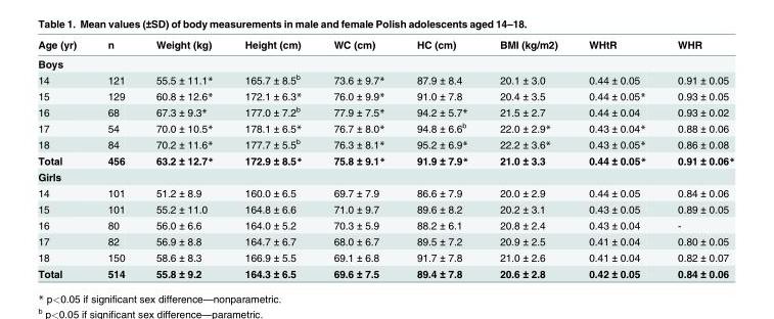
<table><thead><tr><td>Age (yr)</td><td>n</td><td>Weight (kg)</td><td>Height (cm)</td><td>WC (cm)</td><td>HC (cm)</td><td>BMI (kg/m2)</td><td>WHtR</td><td>WHR</td></tr></thead><tbody><tr><td colspan="9">Boys</td></tr><tr><td>14</td><td>121</td><td>55.5 ± 11.1*</td><td>165.7 ± 8.5<sup>b</sup></td><td>73.6 ± 9.7*</td><td>87.9 ± 8.4</td><td>20.1 ± 3.0</td><td>0.44 ± 0.05</td><td>0.91 ± 0.05</td></tr><tr><td>15</td><td>129</td><td>60.8 ± 12.6*</td><td>172.1 ± 6.3*</td><td>76.0 ± 9.9*</td><td>91.0 ± 7.8</td><td>20.4 ± 3.5</td><td>0.44 ± 0.05*</td><td>0.93 ± 0.05</td></tr><tr><td>16</td><td>68</td><td>67.3 ± 9.3*</td><td>177.0 ± 7.2<sup>b</sup></td><td>77.9 ± 7.5*</td><td>94.2 ± 5.7*</td><td>21.5 ± 2.7</td><td>0.44 ± 0.04</td><td>0.93 ± 0.02</td></tr><tr><td>17</td><td>54</td><td>70.0 ± 10.5*</td><td>178.1 ± 6.5*</td><td>76.7 ± 8.0*</td><td>94.8 ± 6.6<sup>b</sup></td><td>22.0 ± 2.9*</td><td>0.43 ± 0.04*</td><td>0.88 ± 0.06</td></tr><tr><td>18</td><td>84</td><td>70.2 ± 11.6*</td><td>177.7 ± 5.5<sup>b</sup></td><td>76.3 ± 8.1*</td><td>95.2 ± 6.9*</td><td>22.2 ± 3.6*</td><td>0.43 ± 0.05*</td><td>0.86 ± 0.08</td></tr><tr><td>Total</td><td>456</td><td>63.2 ± 12.7*</td><td>172.9 ± 8.5*</td><td>75.8 ± 9.1*</td><td>91.9 ± 7.9*</td><td>21.0 ± 3.3</td><td>0.44 ± 0.05*</td><td>0.91 ± 0.06*</td></tr><tr><td colspan="9">Girls</td></tr><tr><td>14</td><td>101</td><td>51.2 ± 8.9</td><td>160.0 ± 6.5</td><td>69.7 ± 7.9</td><td>86.6 ± 7.9</td><td>20.0 ± 2.9</td><td>0.44 ± 0.05</td><td>0.84 ± 0.06</td></tr><tr><td>15</td><td>101</td><td>55.2 ± 11.0</td><td>164.8 ± 6.6</td><td>71.0 ± 9.7</td><td>89.6 ± 8.2</td><td>20.2 ± 3.1</td><td>0.43 ± 0.05</td><td>0.89 ± 0.05</td></tr><tr><td>16</td><td>80</td><td>56.0 ± 6.6</td><td>164.0 ± 5.2</td><td>70.3 ± 5.9</td><td>88.2 ± 6.1</td><td>20.8 ± 2.4</td><td>0.43 ± 0.04</td><td>-</td></tr><tr><td>17</td><td>82</td><td>56.9 ± 8.8</td><td>164.7 ± 6.7</td><td>68.0 ± 6.7</td><td>89.5 ± 7.2</td><td>20.9 ± 2.5</td><td>0.41 ± 0.04</td><td>0.80 ± 0.05</td></tr><tr><td>18</td><td>150</td><td>58.6 ± 8.3</td><td>166.9 ± 5.5</td><td>69.1 ± 6.8</td><td>91.7 ± 7.8</td><td>21.0 ± 2.6</td><td>0.41 ± 0.04</td><td>0.82 ± 0.07</td></tr><tr><td>Total</td><td>514</td><td>55.8 ± 9.2</td><td>164.3 ± 6.5</td><td>69.6 ± 7.5</td><td>89.4 ± 7.8</td><td>20.6 ± 2.8</td><td>0.42 ± 0.05</td><td>0.84 ± 0.06</td></tr></tbody></table>